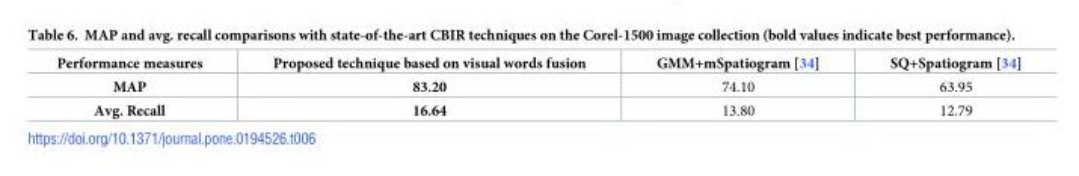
<table><thead><tr><td>Performance measures</td><td>Proposed technique based on visual words fusion</td><td>GMM+mSpatiogram [34]</td><td>SQ+Spatiogram [34]</td></tr></thead><tbody><tr><td>MAP</td><td>83.20</td><td>74.10</td><td>63.95</td></tr><tr><td>Avg. Recall</td><td>16.64</td><td>13.80</td><td>12.79</td></tr></tbody></table>